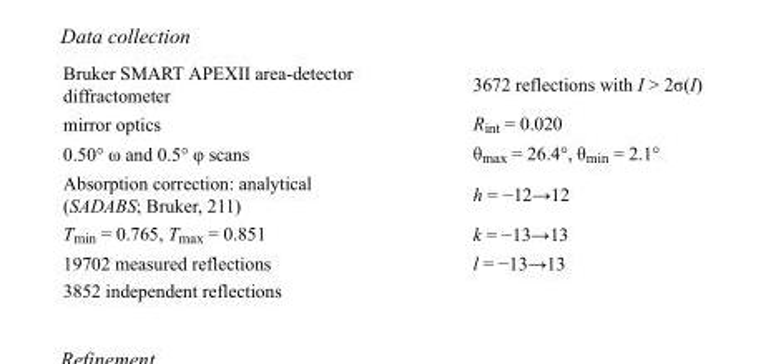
<table><tbody><tr><td>Bruker SMART APEXII area-detector diffractometer</td><td>3672 reflections with I &gt; 2σ(I)</td></tr><tr><td>mirror optics</td><td>R<sub>int</sub> = 0.020</td></tr><tr><td>0.50° ω and 0.5° φ scans</td><td>θ<sub>max</sub> = 26.4°, θ<sub>min</sub> = 2.1°</td></tr><tr><td>Absorption correction: analytical (SADABS; Bruker, 211)</td><td>h = −12→12</td></tr><tr><td>T<sub>min</sub> = 0.765, T<sub>max</sub> = 0.851</td><td>k = −13→13</td></tr><tr><td>19702 measured reflections</td><td>l = −13→13</td></tr><tr><td>3852 independent reflections</td><td></td></tr></tbody></table>